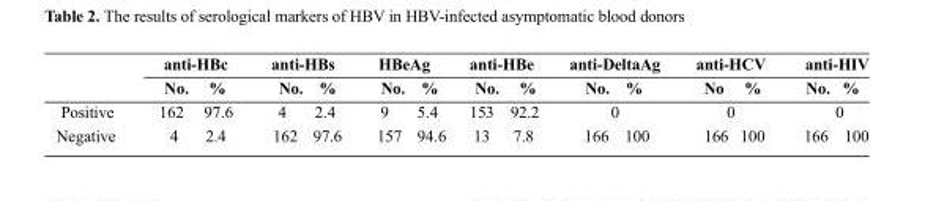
<table><thead><tr><td rowspan="2"></td><td colspan="2">anti-HBc</td><td colspan="2">anti-HBs</td><td colspan="2">HBeAg</td><td colspan="2">anti-HBe</td><td colspan="2">anti-deltaAg</td><td colspan="2">anti-HCV</td><td colspan="2">anti-HIV</td></tr><tr><td>no.</td><td>%</td><td>no.</td><td>%</td><td>no.</td><td>%</td><td>no.</td><td>%</td><td>no.</td><td>%</td><td>no</td><td>%</td><td>no.</td><td>%</td></tr></thead><tbody><tr><td>Positive</td><td>162</td><td>97.6</td><td>4</td><td>2.4</td><td>9</td><td>5.4</td><td>153</td><td>92.2</td><td colspan="2">0</td><td colspan="2">0</td><td colspan="2">0</td></tr><tr><td>Negative</td><td>4</td><td>2.4</td><td>162</td><td>97.6</td><td>157</td><td>94.6</td><td>13</td><td>7.8</td><td>166</td><td>100</td><td>166</td><td>100</td><td>166</td><td>100</td></tr></tbody></table>